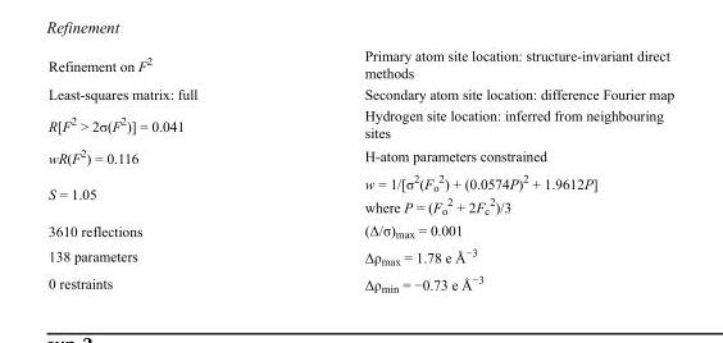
<table><tbody><tr><td>Refinement on F<sup>2</sup></td><td>Primary atom site location: structure-invariant direct methods</td></tr><tr><td>Least-squares matrix: full</td><td>Secondary atom site location: difference Fourier map</td></tr><tr><td>R[F<sup>2</sup> &gt; 2σ(F<sup>2</sup>)] = 0.041</td><td>Hydrogen site location: inferred from neighbouring sites</td></tr><tr><td>wR(F<sup>2</sup>) = 0.116</td><td>H-atom parameters constrained</td></tr><tr><td>S = 1.05</td><td>w = 1/[σ<sup>2</sup>(F<sub>o</sub> <sup>2</sup>) + (0.0574P)<sup>2</sup> + 1.9612P] where P = (F<sub>o</sub> <sup>2</sup> + 2F<sub>c</sub> <sup>2</sup>)/3</td></tr><tr><td>3610 reflections</td><td>(Δ/σ)<sub>max</sub> = 0.001</td></tr><tr><td>138 parameters</td><td>Δρ<sub>max</sub> = 1.78 e Å<sup>−3</sup></td></tr><tr><td>0 restraints</td><td>Δρ<sub>min</sub> = −0.73 e Å<sup>−3</sup></td></tr></tbody></table>